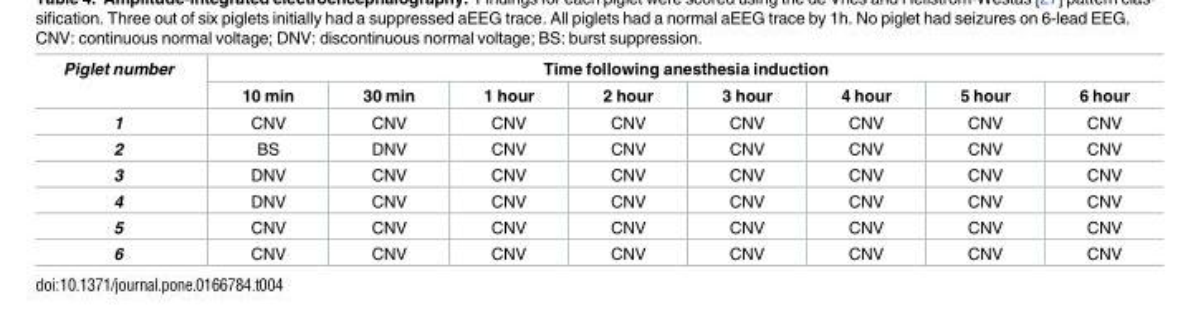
<table><thead><tr><td rowspan="2">Piglet number</td><td colspan="8">Time following anesthesia induction</td></tr><tr><td>10 min</td><td>30 min</td><td>1 hour</td><td>2 hour</td><td>3 hour</td><td>4 hour</td><td>5 hour</td><td>6 hour</td></tr></thead><tbody><tr><td>1</td><td>CNV</td><td>CNV</td><td>CNV</td><td>CNV</td><td>CNV</td><td>CNV</td><td>CNV</td><td>CNV</td></tr><tr><td>2</td><td>BS</td><td>DNV</td><td>CNV</td><td>CNV</td><td>CNV</td><td>CNV</td><td>CNV</td><td>CNV</td></tr><tr><td>3</td><td>DNV</td><td>CNV</td><td>CNV</td><td>CNV</td><td>CNV</td><td>CNV</td><td>CNV</td><td>CNV</td></tr><tr><td>4</td><td>DNV</td><td>CNV</td><td>CNV</td><td>CNV</td><td>CNV</td><td>CNV</td><td>CNV</td><td>CNV</td></tr><tr><td>5</td><td>CNV</td><td>CNV</td><td>CNV</td><td>CNV</td><td>CNV</td><td>CNV</td><td>CNV</td><td>CNV</td></tr><tr><td>6</td><td>CNV</td><td>CNV</td><td>CNV</td><td>CNV</td><td>CNV</td><td>CNV</td><td>CNV</td><td>CNV</td></tr></tbody></table>